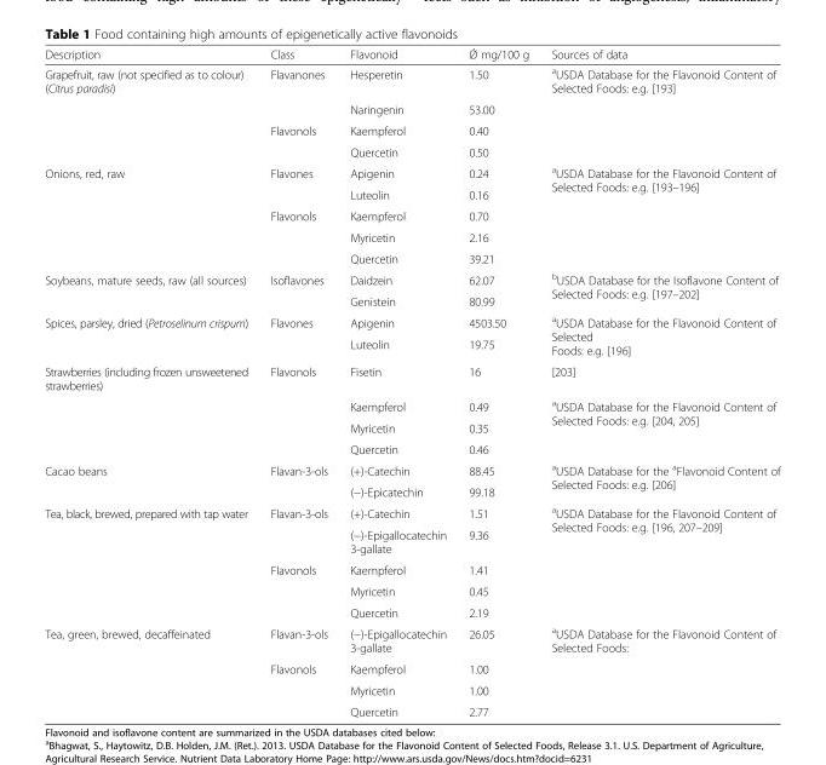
<table><thead><tr><td>Description</td><td>Class</td><td>Flavonoid</td><td>Ǿ mg/100 g</td><td>Sources of data</td></tr></thead><tbody><tr><td rowspan="4">Grapefruit, raw (not specified as to colour) (Citrus paradisi)</td><td>Flavanones</td><td>Hesperetin</td><td>1.50</td><td rowspan="4"><sup>a</sup>USDA Database for the Flavonoid Content of Selected Foods: e.g. [193]</td></tr><tr><td></td><td>Naringenin</td><td>53.00</td></tr><tr><td>Flavonols</td><td>Kaempferol</td><td>0.40</td></tr><tr><td></td><td>Quercetin</td><td>0.50</td></tr><tr><td rowspan="5">Onions, red, raw</td><td>Flavones</td><td>Apigenin</td><td>0.24</td><td rowspan="5"><sup>a</sup>USDA Database for the Flavonoid Content of Selected Foods: e.g. [193–196]</td></tr><tr><td></td><td>Luteolin</td><td>0.16</td></tr><tr><td>Flavonols</td><td>Kaempferol</td><td>0.70</td></tr><tr><td></td><td>Myricetin</td><td>2.16</td></tr><tr><td></td><td>Quercetin</td><td>39.21</td></tr><tr><td rowspan="2">Soybeans, mature seeds, raw (all sources)</td><td>Isoflavones</td><td>Daidzein</td><td>62.07</td><td rowspan="2"><sup>b</sup>USDA Database for the Isoflavone Content of Selected Foods: e.g. [197–202]</td></tr><tr><td></td><td>Genistein</td><td>80.99</td></tr><tr><td rowspan="2">Spices, parsley, dried (Petroselinum crispum)</td><td>Flavones</td><td>Apigenin</td><td>4503.50</td><td rowspan="2"><sup>a</sup>USDA Database for the Flavonoid Content of Selected Foods: e.g. [196]</td></tr><tr><td></td><td>Luteolin</td><td>19.75</td></tr><tr><td rowspan="4">Strawberries (including frozen unsweetened strawberries)</td><td>Flavonols</td><td>Fisetin</td><td>16</td><td>[203]</td></tr><tr><td></td><td>Kaempferol</td><td>0.49</td><td rowspan="3"><sup>a</sup>USDA Database for the Flavonoid Content of Selected Foods: e.g. [204, 205]</td></tr><tr><td></td><td>Myricetin</td><td>0.35</td></tr><tr><td></td><td>Quercetin</td><td>0.46</td></tr><tr><td rowspan="2">Cacao beans</td><td rowspan="2">Flavan-3-ols</td><td>(+)-Catechin</td><td>88.45</td><td rowspan="2"><sup>a</sup>USDA Database for the <sup>a</sup>Flavonoid Content of Selected Foods: e.g. [206]</td></tr><tr><td>(−)-Epicatechin</td><td>99.18</td></tr><tr><td rowspan="5">Tea, black, brewed, prepared with tap water</td><td>Flavan-3-ols</td><td>(+)-Catechin</td><td>1.51</td><td rowspan="5"><sup>a</sup>USDA Database for the Flavonoid Content of Selected Foods: e.g. [196, 207–209]</td></tr><tr><td></td><td>(−)-Epigallocatechin 3-gallate</td><td>9.36</td></tr><tr><td>Flavonols</td><td>Kaempferol</td><td>1.41</td></tr><tr><td></td><td>Myricetin</td><td>0.45</td></tr><tr><td></td><td>Quercetin</td><td>2.19</td></tr><tr><td rowspan="4">Tea, green, brewed, decaffeinated</td><td>Flavan-3-ols</td><td>(−)-Epigallocatechin 3-gallate</td><td>26.05</td><td rowspan="4"><sup>a</sup>USDA Database for the Flavonoid Content of Selected Foods:</td></tr><tr><td>Flavonols</td><td>Kaempferol</td><td>1.00</td></tr><tr><td></td><td>Myricetin</td><td>1.00</td></tr><tr><td></td><td>Quercetin</td><td>2.77</td></tr></tbody></table>